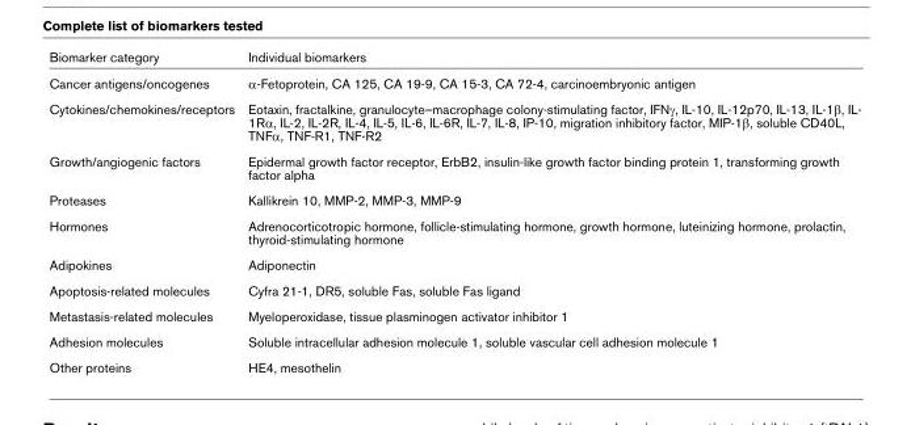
<table><thead><tr><td>Biomarker category</td><td>Individual biomarkers</td></tr></thead><tbody><tr><td>Cancer antigens/oncogenes</td><td>α-Fetoprotein, CA 125, CA 19-9, CA 15-3, CA 72-4, carcinoembryonic antigen</td></tr><tr><td>Cytokines/chemokines/receptors</td><td>Eotaxin, fractalkine, granulocyte–macrophage colony-stimulating factor, IFNγ, IL-10, IL-12p70, IL-13, IL-1β, IL- 1Rα, IL-2, IL-2R, IL-4, IL-5, IL-6, IL-6R, IL-7, IL-8, IP-10, migration inhibitory factor, MIP-1β, soluble CD40L, TNFα, TNF-R1, TNF-R2</td></tr><tr><td>Growth/angiogenic factors</td><td>Epidermal growth factor receptor, ErbB2, insulin-like growth factor binding protein 1, transforming growth factor alpha</td></tr><tr><td>Proteases</td><td>Kallikrein 10, MMP-2, MMP-3, MMP-9</td></tr><tr><td>Hormones</td><td>Adrenocorticotropic hormone, follicle-stimulating hormone, growth hormone, luteinizing hormone, prolactin, thyroid-stimulating hormone</td></tr><tr><td>Adipokines</td><td>Adiponectin</td></tr><tr><td>Apoptosis-related molecules</td><td>Cyfra 21-1, DR5, soluble Fas, soluble Fas ligand</td></tr><tr><td>Metastasis-related molecules</td><td>Myeloperoxidase, tissue plasminogen activator inhibitor 1</td></tr><tr><td>Adhesion molecules</td><td>Soluble intracellular adhesion molecule 1, soluble vascular cell adhesion molecule 1</td></tr><tr><td>Other proteins</td><td>HE4, mesothelin</td></tr></tbody></table>